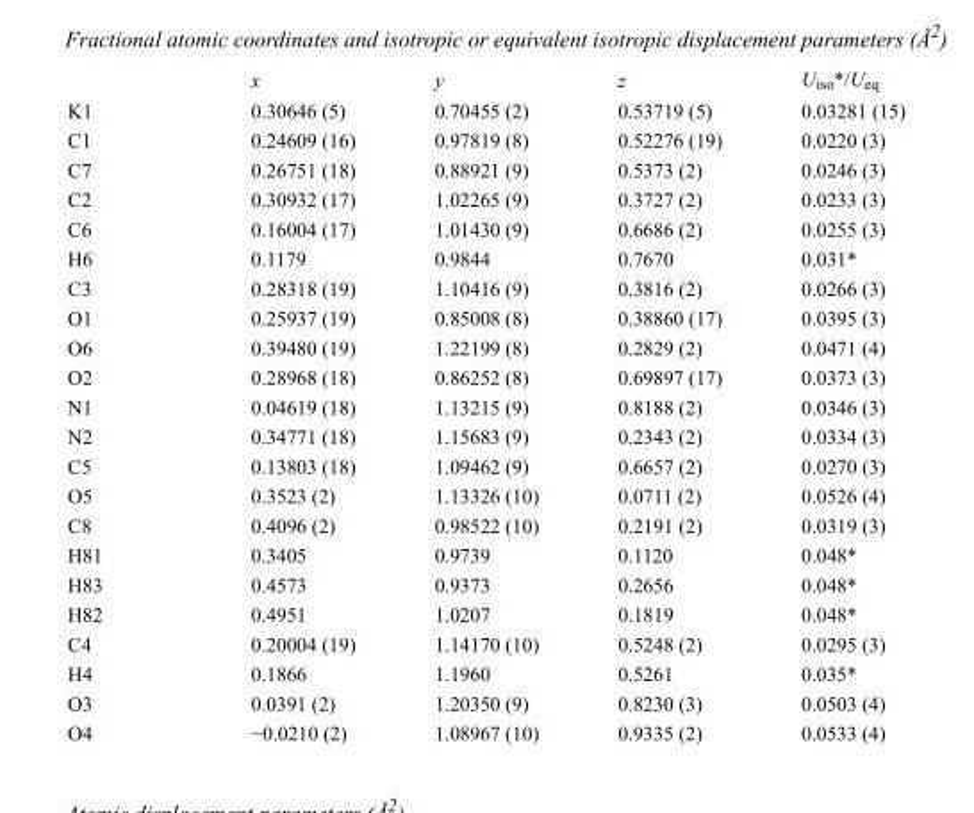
<table><thead><tr><td></td><td>x</td><td>y</td><td>z</td><td>U<sub>iso</sub>*/U<sub>eq</sub></td></tr></thead><tbody><tr><td>K1</td><td>0.30646 (5)</td><td>0.70455 (2)</td><td>0.53719 (5)</td><td>0.03281 (15)</td></tr><tr><td>C1</td><td>0.24609 (16)</td><td>0.97819 (8)</td><td>0.52276 (19)</td><td>0.0220 (3)</td></tr><tr><td>C7</td><td>0.26751 (18)</td><td>0.88921 (9)</td><td>0.5373 (2)</td><td>0.0246 (3)</td></tr><tr><td>C2</td><td>0.30932 (17)</td><td>1.02265 (9)</td><td>0.3727 (2)</td><td>0.0233 (3)</td></tr><tr><td>C6</td><td>0.16004 (17)</td><td>1.01430 (9)</td><td>0.6686 (2)</td><td>0.0255 (3)</td></tr><tr><td>H6</td><td>0.1179</td><td>0.9844</td><td>0.7670</td><td>0.031*</td></tr><tr><td>C3</td><td>0.28318 (19)</td><td>1.10416 (9)</td><td>0.3816 (2)</td><td>0.0266 (3)</td></tr><tr><td>O1</td><td>0.25937 (19)</td><td>0.85008 (8)</td><td>0.38860 (17)</td><td>0.0395 (3)</td></tr><tr><td>O6</td><td>0.39480 (19)</td><td>1.22199 (8)</td><td>0.2829 (2)</td><td>0.0471 (4)</td></tr><tr><td>O2</td><td>0.28968 (18)</td><td>0.86252 (8)</td><td>0.69897 (17)</td><td>0.0373 (3)</td></tr><tr><td>N1</td><td>0.04619 (18)</td><td>1.13215 (9)</td><td>0.8188 (2)</td><td>0.0346 (3)</td></tr><tr><td>N2</td><td>0.34771 (18)</td><td>1.15683 (9)</td><td>0.2343 (2)</td><td>0.0334 (3)</td></tr><tr><td>C5</td><td>0.13803 (18)</td><td>1.09462 (9)</td><td>0.6657 (2)</td><td>0.0270 (3)</td></tr><tr><td>O5</td><td>0.3523 (2)</td><td>1.13326 (10)</td><td>0.0711 (2)</td><td>0.0526 (4)</td></tr><tr><td>C8</td><td>0.4096 (2)</td><td>0.98522 (10)</td><td>0.2191 (2)</td><td>0.0319 (3)</td></tr><tr><td>H81</td><td>0.3405</td><td>0.9739</td><td>0.1120</td><td>0.048*</td></tr><tr><td>H83</td><td>0.4573</td><td>0.9373</td><td>0.2656</td><td>0.048*</td></tr><tr><td>H82</td><td>0.4951</td><td>1.0207</td><td>0.1819</td><td>0.048*</td></tr><tr><td>C4</td><td>0.20004 (19)</td><td>1.14170 (10)</td><td>0.5248 (2)</td><td>0.0295 (3)</td></tr><tr><td>H4</td><td>0.1866</td><td>1.1960</td><td>0.5261</td><td>0.035*</td></tr><tr><td>O3</td><td>0.0391 (2)</td><td>1.20350 (9)</td><td>0.8230 (3)</td><td>0.0503 (4)</td></tr><tr><td>O4</td><td>−0.0210 (2)</td><td>1.08967 (10)</td><td>0.9335 (2)</td><td>0.0533 (4)</td></tr></tbody></table>